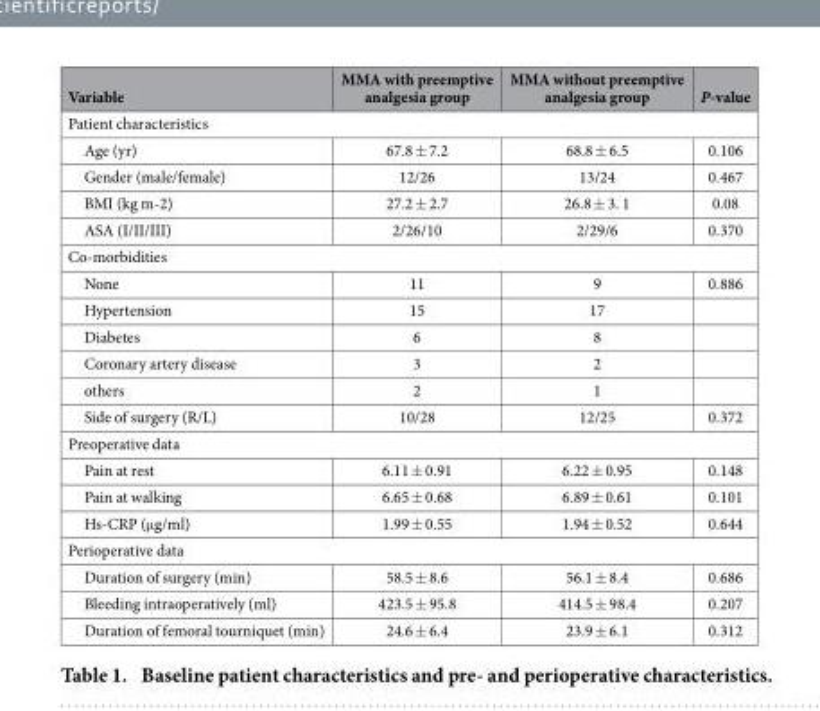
<table><thead><tr><td>Variable</td><td>MMA with preemptive analgesia group</td><td>MMA without preemptive analgesia group</td><td>P-value</td></tr></thead><tbody><tr><td colspan="4">Patient characteristics</td></tr><tr><td>Age (yr)</td><td>67.8 ± 7.2</td><td>68.8 ± 6.5</td><td>0.106</td></tr><tr><td>Gender (male/female)</td><td>12/26</td><td>13/24</td><td>0.467</td></tr><tr><td>BMI (kg m-2)</td><td>27.2 ± 2.7</td><td>26.8 ± 3. 1</td><td>0.08</td></tr><tr><td>ASA (I/II/III)</td><td>2/26/10</td><td>2/29/6</td><td>0.370</td></tr><tr><td colspan="4">Co-morbidities</td></tr><tr><td>None</td><td>11</td><td>9</td><td>0.886</td></tr><tr><td>Hypertension</td><td>15</td><td>17</td><td></td></tr><tr><td>Diabetes</td><td>6</td><td>8</td><td></td></tr><tr><td>Coronary artery disease</td><td>3</td><td>2</td><td></td></tr><tr><td>others</td><td>2</td><td>1</td><td></td></tr><tr><td>Side of surgery (R/L)</td><td>10/28</td><td>12/25</td><td>0.372</td></tr><tr><td colspan="4">Preoperative data</td></tr><tr><td>Pain at rest</td><td>6.11 ± 0.91</td><td>6.22 ± 0.95</td><td>0.148</td></tr><tr><td>Pain at walking</td><td>6.65 ± 0.68</td><td>6.89 ± 0.61</td><td>0.101</td></tr><tr><td>Hs-CRP (μ g/ml)</td><td>1.99 ± 0.55</td><td>1.94 ± 0.52</td><td>0.644</td></tr><tr><td colspan="4">Perioperative data</td></tr><tr><td>Duration of surgery (min)</td><td>58.5 ± 8.6</td><td>56.1 ± 8.4</td><td>0.686</td></tr><tr><td>Bleeding intraoperatively (ml)</td><td>423.5 ± 95.8</td><td>414.5 ± 98.4</td><td>0.207</td></tr><tr><td>Duration of femoral tourniquet (min)</td><td>24.6 ± 6.4</td><td>23.9 ± 6.1</td><td>0.312</td></tr></tbody></table>